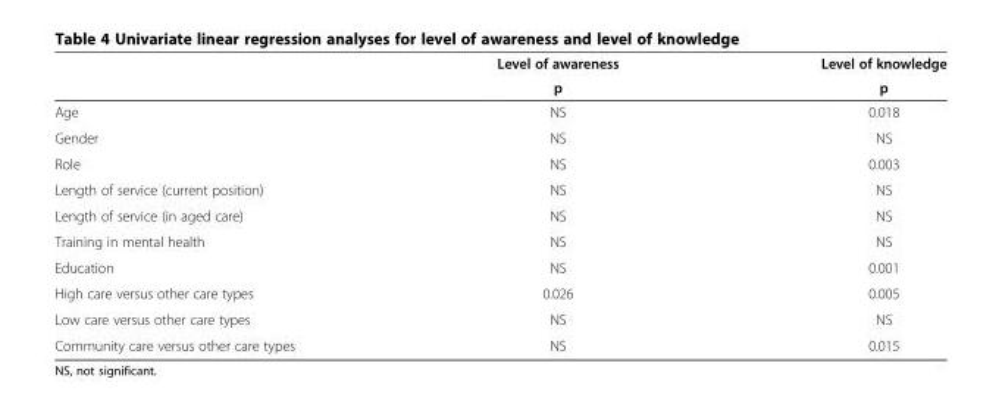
<table><thead><tr><td rowspan="2"></td><td rowspan="2">Level of awareness p</td><td rowspan="2">Level of knowledge p</td></tr><tr></tr></thead><tbody><tr><td>Age</td><td>NS</td><td>0.018</td></tr><tr><td>Gender</td><td>NS</td><td>NS</td></tr><tr><td>Role</td><td>NS</td><td>0.003</td></tr><tr><td>Length of service (current position)</td><td>NS</td><td>NS</td></tr><tr><td>Length of service (in aged care)</td><td>NS</td><td>NS</td></tr><tr><td>Training in mental health</td><td>NS</td><td>NS</td></tr><tr><td>Education</td><td>NS</td><td>0.001</td></tr><tr><td>High care versus other care types</td><td>0.026</td><td>0.005</td></tr><tr><td>Low care versus other care types</td><td>NS</td><td>NS</td></tr><tr><td>Community care versus other care types</td><td>NS</td><td>0.015</td></tr></tbody></table>